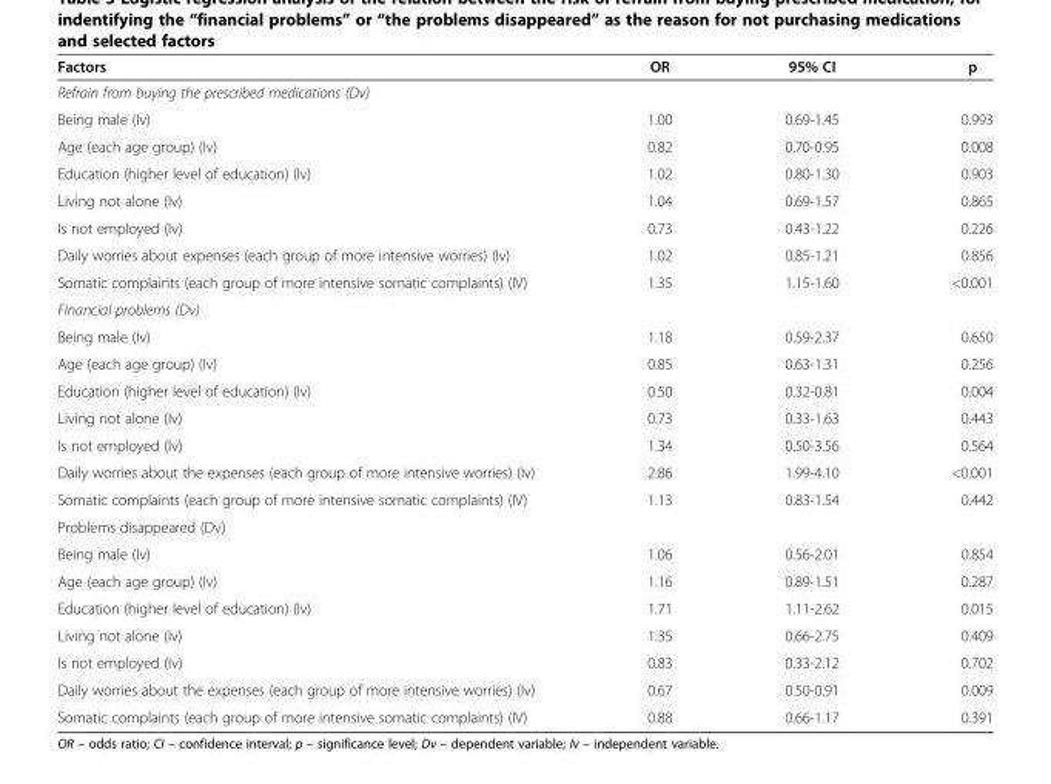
<table><thead><tr><td>Factors</td><td>OR</td><td>95% CI</td><td>p</td></tr></thead><tbody><tr><td colspan="4">Refrain from buying the prescribed medications (Dv)</td></tr><tr><td>Being male (Iv)</td><td>1.00</td><td>0.69-1.45</td><td>0.993</td></tr><tr><td>Age (each age group) (Iv)</td><td>0.82</td><td>0.70-0.95</td><td>0.008</td></tr><tr><td>Education (higher level of education) (Iv)</td><td>1.02</td><td>0.80-1.30</td><td>0.903</td></tr><tr><td>Living not alone (Iv)</td><td>1.04</td><td>0.69-1.57</td><td>0.865</td></tr><tr><td>Is not employed (Iv)</td><td>0.73</td><td>0.43-1.22</td><td>0.226</td></tr><tr><td>Daily worries about expenses (each group of more intensive worries) (Iv)</td><td>1.02</td><td>0.85-1.21</td><td>0.856</td></tr><tr><td>Somatic complaints (each group of more intensive somatic complaints) (IV)</td><td>1.35</td><td>1.15-1.60</td><td>&lt;0.001</td></tr><tr><td colspan="4">Financial problems (Dv)</td></tr><tr><td>Being male (Iv)</td><td>1.18</td><td>0.59-2.37</td><td>0.650</td></tr><tr><td>Age (each age group) (Iv)</td><td>0.85</td><td>0.63-1.31</td><td>0.256</td></tr><tr><td>Education (higher level of education) (Iv)</td><td>0.50</td><td>0.32-0.81</td><td>0.004</td></tr><tr><td>Living not alone (Iv)</td><td>0.73</td><td>0.33-1.63</td><td>0.443</td></tr><tr><td>Is not employed (Iv)</td><td>1.34</td><td>0.50-3.56</td><td>0.564</td></tr><tr><td>Daily worries about the expenses (each group of more intensive worries) (Iv)</td><td>2.86</td><td>1.99-4.10</td><td>&lt;0.001</td></tr><tr><td>Somatic complaints (each group of more intensive somatic complaints) (IV)</td><td>1.13</td><td>0.83-1.54</td><td>0.442</td></tr><tr><td colspan="4">Problems disappeared (Dv)</td></tr><tr><td>Being male (Iv)</td><td>1.06</td><td>0.56-2.01</td><td>0.854</td></tr><tr><td>Age (each age group) (Iv)</td><td>1.16</td><td>0.89-1.51</td><td>0.287</td></tr><tr><td>Education (higher level of education) (Iv)</td><td>1.71</td><td>1.11-2.62</td><td>0.015</td></tr><tr><td>Living not alone (Iv)</td><td>1.35</td><td>0.66-2.75</td><td>0.409</td></tr><tr><td>Is not employed (Iv)</td><td>0.83</td><td>0.33-2.12</td><td>0.702</td></tr><tr><td>Daily worries about the expenses (each group of more intensive worries) (Iv)</td><td>0.67</td><td>0.50-0.91</td><td>0.009</td></tr><tr><td>Somatic complaints (each group of more intensive somatic complaints) (IV)</td><td>0.88</td><td>0.66-1.17</td><td>0.391</td></tr></tbody></table>